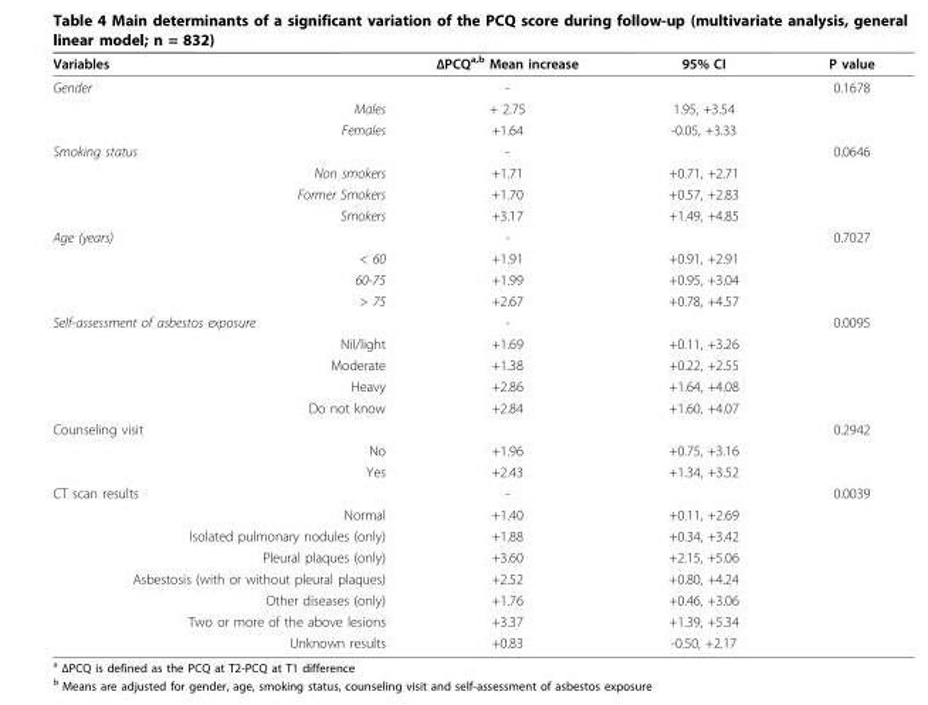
<table><thead><tr><td>Variables</td><td>ΔPCQ<sup>a,b</sup> Mean increase</td><td>95% CI</td><td>P value</td></tr></thead><tbody><tr><td>Gender</td><td>-</td><td></td><td>0.1678</td></tr><tr><td>Males</td><td>+ 2.75</td><td>1.95, +3.54</td><td></td></tr><tr><td>Females</td><td>+1.64</td><td>-0.05, +3.33</td><td></td></tr><tr><td>Smoking status</td><td>-</td><td></td><td>0.0646</td></tr><tr><td>Non smokers</td><td>+1.71</td><td>+0.71, +2.71</td><td></td></tr><tr><td>Former Smokers</td><td>+1.70</td><td>+0.57, +2.83</td><td></td></tr><tr><td>Smokers</td><td>+3.17</td><td>+1.49, +4.85</td><td></td></tr><tr><td>Age (years)</td><td>-</td><td></td><td>0.7027</td></tr><tr><td>&lt; 60</td><td>+1.91</td><td>+0.91, +2.91</td><td></td></tr><tr><td>60-75</td><td>+1.99</td><td>+0.95, +3.04</td><td></td></tr><tr><td>&gt; 75</td><td>+2.67</td><td>+0.78, +4.57</td><td></td></tr><tr><td>Self-assessment of asbestos exposure</td><td>-</td><td></td><td>0.0095</td></tr><tr><td>Nil/light</td><td>+1.69</td><td>+0.11, +3.26</td><td></td></tr><tr><td>Moderate</td><td>+1.38</td><td>+0.22, +2.55</td><td></td></tr><tr><td>Heavy</td><td>+2.86</td><td>+1.64, +4.08</td><td></td></tr><tr><td>Do not know</td><td>+2.84</td><td>+1.60, +4.07</td><td></td></tr><tr><td>Counseling visit</td><td></td><td></td><td>0.2942</td></tr><tr><td>No</td><td>+1.96</td><td>+0.75, +3.16</td><td></td></tr><tr><td>Yes</td><td>+2.43</td><td>+1.34, +3.52</td><td></td></tr><tr><td>CT scan results</td><td>-</td><td></td><td>0.0039</td></tr><tr><td>Normal</td><td>+1.40</td><td>+0.11, +2.69</td><td></td></tr><tr><td>Isolated pulmonary nodules (only)</td><td>+1.88</td><td>+0.34, +3.42</td><td></td></tr><tr><td>Pleural plaques (only)</td><td>+3.60</td><td>+2.15, +5.06</td><td></td></tr><tr><td>Asbestosis (with or without pleural plaques)</td><td>+2.52</td><td>+0.80, +4.24</td><td></td></tr><tr><td>Other diseases (only)</td><td>+1.76</td><td>+0.46, +3.06</td><td></td></tr><tr><td>Two or more of the above lesions</td><td>+3.37</td><td>+1.39, +5.34</td><td></td></tr><tr><td>Unknown results</td><td>+0.83</td><td>-0.50, +2.17</td><td></td></tr></tbody></table>